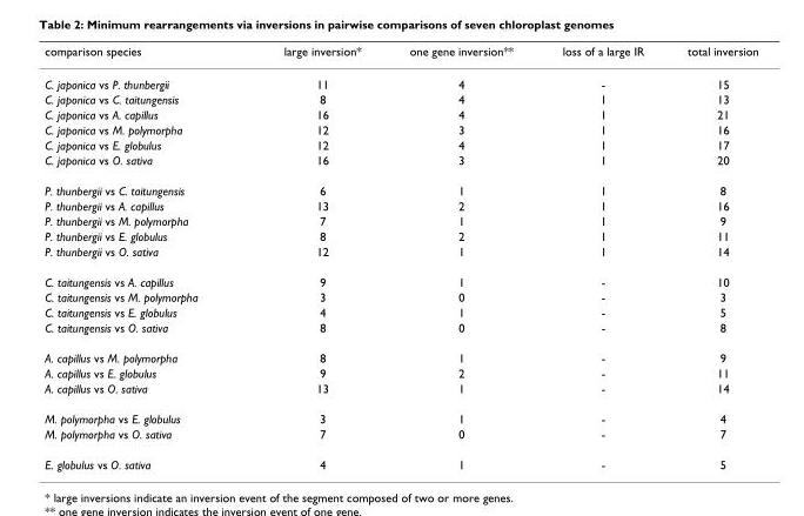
<table><thead><tr><td>comparison species</td><td>large inversion*</td><td>one gene inversion**</td><td>loss of a large IR</td><td>total inversion</td></tr></thead><tbody><tr><td>C. japonica vs P. thunbergii</td><td>11</td><td>4</td><td>-</td><td>15</td></tr><tr><td>C. japonica vs C. taitungensis</td><td>8</td><td>4</td><td>1</td><td>13</td></tr><tr><td>C. japonica vs A. capillus</td><td>16</td><td>4</td><td>1</td><td>21</td></tr><tr><td>C. japonica vs M. polymorpha</td><td>12</td><td>3</td><td>1</td><td>16</td></tr><tr><td>C. japonica vs E. globulus</td><td>12</td><td>4</td><td>1</td><td>17</td></tr><tr><td>C. japonica vs O. sativa</td><td>16</td><td>3</td><td>1</td><td>20</td></tr><tr><td>P. thunbergii vs C. taitungensis</td><td>6</td><td>1</td><td>1</td><td>8</td></tr><tr><td>P. thunbergii vs A. capillus</td><td>13</td><td>2</td><td>1</td><td>16</td></tr><tr><td>P. thunbergii vs M. polymorpha</td><td>7</td><td>1</td><td>1</td><td>9</td></tr><tr><td>P. thunbergii vs E. globulus</td><td>8</td><td>2</td><td>1</td><td>11</td></tr><tr><td>P. thunbergii vs O. sativa</td><td>12</td><td>1</td><td>1</td><td>14</td></tr><tr><td>C. taitungensis vs A. capillus</td><td>9</td><td>1</td><td>-</td><td>10</td></tr><tr><td>C. taitungensis vs M. polymorpha</td><td>3</td><td>0</td><td>-</td><td>3</td></tr><tr><td>C. taitungensis vs E. globulus</td><td>4</td><td>1</td><td>-</td><td>5</td></tr><tr><td>C. taitungensis vs O. sativa</td><td>8</td><td>0</td><td>-</td><td>8</td></tr><tr><td>A. capillus vs M. polymorpha</td><td>8</td><td>1</td><td>-</td><td>9</td></tr><tr><td>A. capillus vs E. globulus</td><td>9</td><td>2</td><td>-</td><td>11</td></tr><tr><td>A. capillus vs O. sativa</td><td>13</td><td>1</td><td>-</td><td>14</td></tr><tr><td>M. polymorpha vs E. globulus</td><td>3</td><td>1</td><td>-</td><td>4</td></tr><tr><td>M. polymorpha vs O. sativa</td><td>7</td><td>0</td><td>-</td><td>7</td></tr><tr><td>E. globulus vs O. sativa</td><td>4</td><td>1</td><td>-</td><td>5</td></tr></tbody></table>